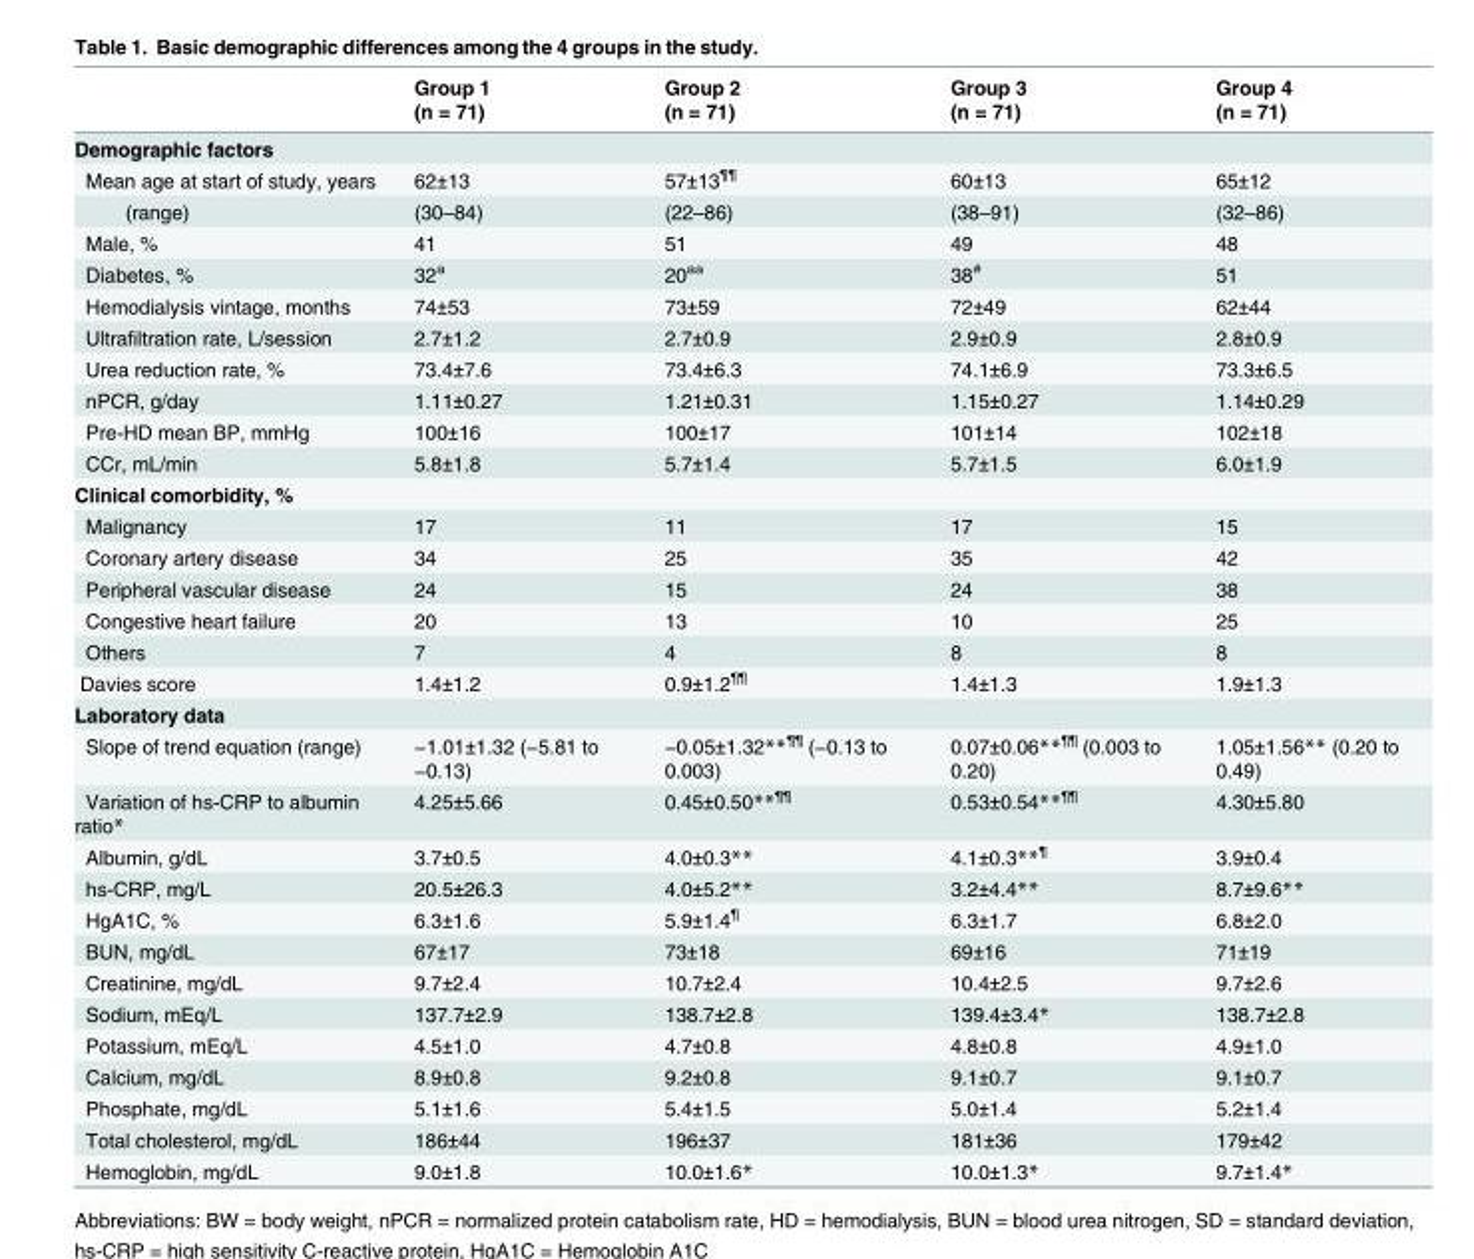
<table><thead><tr><td rowspan="2"></td><td rowspan="2">Group 1 (n = 71)</td><td rowspan="2">Group 2 (n = 71)</td><td rowspan="2">Group 3 (n = 71)</td><td rowspan="2">Group 4 (n = 71)</td></tr><tr></tr></thead><tbody><tr><td colspan="5">Demographic factors</td></tr><tr><td>Mean age at start of study, years</td><td>62±13</td><td>57±13<sup>¶¶</sup></td><td>60±13</td><td>65±12</td></tr><tr><td>(range)</td><td>(30–84)</td><td>(22–86)</td><td>(38–91)</td><td>(32–86)</td></tr><tr><td>Male, %</td><td>41</td><td>51</td><td>49</td><td>48</td></tr><tr><td>Diabetes, %</td><td>32<sup>a</sup></td><td>20<sup>aa</sup></td><td>38<sup>#</sup></td><td>51</td></tr><tr><td>Hemodialysis vintage, months</td><td>74±53</td><td>73±59</td><td>72±49</td><td>62±44</td></tr><tr><td>Ultrafiltration rate, L/session</td><td>2.7±1.2</td><td>2.7±0.9</td><td>2.9±0.9</td><td>2.8±0.9</td></tr><tr><td>Urea reduction rate, %</td><td>73.4±7.6</td><td>73.4±6.3</td><td>74.1±6.9</td><td>73.3±6.5</td></tr><tr><td>nPCR, g/day</td><td>1.11±0.27</td><td>1.21±0.31</td><td>1.15±0.27</td><td>1.14±0.29</td></tr><tr><td>Pre-HD mean BP, mmHg</td><td>100±16</td><td>100±17</td><td>101±14</td><td>102±18</td></tr><tr><td>CCr, mL/min</td><td>5.8±1.8</td><td>5.7±1.4</td><td>5.7±1.5</td><td>6.0±1.9</td></tr><tr><td colspan="5">Clinical comorbidity, %</td></tr><tr><td>Malignancy</td><td>17</td><td>11</td><td>17</td><td>15</td></tr><tr><td>Coronary artery disease</td><td>34</td><td>25</td><td>35</td><td>42</td></tr><tr><td>Peripheral vascular disease</td><td>24</td><td>15</td><td>24</td><td>38</td></tr><tr><td>Congestive heart failure</td><td>20</td><td>13</td><td>10</td><td>25</td></tr><tr><td>Others</td><td>7</td><td>4</td><td>8</td><td>8</td></tr><tr><td>Davies score</td><td>1.4±1.2</td><td>0.9±1.2<sup>¶¶</sup></td><td>1.4±1.3</td><td>1.9±1.3</td></tr><tr><td colspan="5">Laboratory data</td></tr><tr><td>Slope of trend equation (range)</td><td>−1.01±1.32 (−5.81 to −0.13)</td><td>−0.05±1.32**<sup>¶¶</sup> (−0.13 to 0.003)</td><td>0.07±0.06**<sup>¶¶</sup> (0.003 to 0.20)</td><td>1.05±1.56** (0.20 to 0.49)</td></tr><tr><td>Variation of hs-CRP to albumin ratio*</td><td>4.25±5.66</td><td>0.45±0.50**<sup>¶¶</sup></td><td>0.53±0.54**<sup>¶¶</sup></td><td>4.30±5.80</td></tr><tr><td>Albumin, g/dL</td><td>3.7±0.5</td><td>4.0±0.3**</td><td>4.1±0.3**<sup>¶</sup></td><td>3.9±0.4</td></tr><tr><td>hs-CRP, mg/L</td><td>20.5±26.3</td><td>4.0±5.2**</td><td>3.2±4.4**</td><td>8.7±9.6**</td></tr><tr><td>HgA1C, %</td><td>6.3±1.6</td><td>5.9±1.4<sup>¶</sup></td><td>6.3±1.7</td><td>6.8±2.0</td></tr><tr><td>BUN, mg/dL</td><td>67±17</td><td>73±18</td><td>69±16</td><td>71±19</td></tr><tr><td>Creatinine, mg/dL</td><td>9.7±2.4</td><td>10.7±2.4</td><td>10.4±2.5</td><td>9.7±2.6</td></tr><tr><td>Sodium, mEq/L</td><td>137.7±2.9</td><td>138.7±2.8</td><td>139.4±3.4*</td><td>138.7±2.8</td></tr><tr><td>Potassium, mEq/L</td><td>4.5±1.0</td><td>4.7±0.8</td><td>4.8±0.8</td><td>4.9±1.0</td></tr><tr><td>Calcium, mg/dL</td><td>8.9±0.8</td><td>9.2±0.8</td><td>9.1±0.7</td><td>9.1±0.7</td></tr><tr><td>Phosphate, mg/dL</td><td>5.1±1.6</td><td>5.4±1.5</td><td>5.0±1.4</td><td>5.2±1.4</td></tr><tr><td>Total cholesterol, mg/dL</td><td>186±44</td><td>196±37</td><td>181±36</td><td>179±42</td></tr><tr><td>Hemoglobin, mg/dL</td><td>9.0±1.8</td><td>10.0±1.6*</td><td>10.0±1.3*</td><td>9.7±1.4*</td></tr></tbody></table>